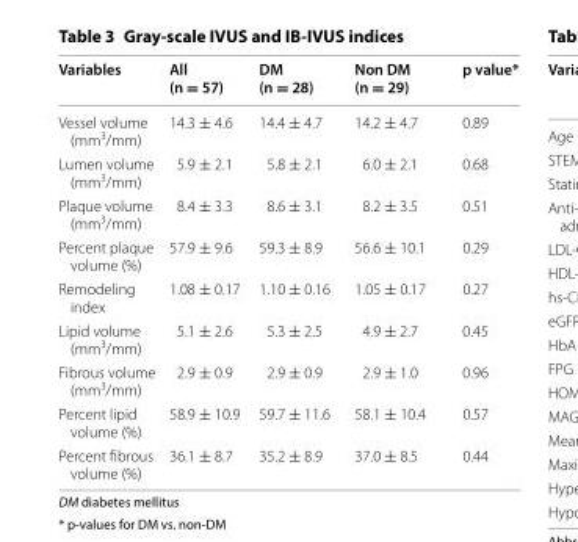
<table><thead><tr><td>Variables</td><td>All (n = 57)</td><td>DM (n = 28)</td><td>Non DM (n = 29)</td><td>p value*</td></tr></thead><tbody><tr><td>Vessel volume (mm<sup>3</sup>/mm)</td><td>14.3 ± 4.6</td><td>14.4 ± 4.7</td><td>14.2 ± 4.7</td><td>0.89</td></tr><tr><td>Lumen volume (mm<sup>3</sup>/mm)</td><td>5.9 ± 2.1</td><td>5.8 ± 2.1</td><td>6.0 ± 2.1</td><td>0.68</td></tr><tr><td>Plaque volume (mm<sup>3</sup>/mm)</td><td>8.4 ± 3.3</td><td>8.6 ± 3.1</td><td>8.2 ± 3.5</td><td>0.51</td></tr><tr><td>Percent plaque volume (%)</td><td>57.9 ± 9.6</td><td>59.3 ± 8.9</td><td>56.6 ± 10.1</td><td>0.29</td></tr><tr><td>Remodeling index</td><td>1.08 ± 0.17</td><td>1.10 ± 0.16</td><td>1.05 ± 0.17</td><td>0.27</td></tr><tr><td>Lipid volume (mm<sup>3</sup>/mm)</td><td>5.1 ± 2.6</td><td>5.3 ± 2.5</td><td>4.9 ± 2.7</td><td>0.45</td></tr><tr><td>Fibrous volume (mm<sup>3</sup>/mm)</td><td>2.9 ± 0.9</td><td>2.9 ± 0.9</td><td>2.9 ± 1.0</td><td>0.96</td></tr><tr><td>Percent lipid volume (%)</td><td>58.9 ± 10.9</td><td>59.7 ± 11.6</td><td>58.1 ± 10.4</td><td>0.57</td></tr><tr><td>Percent fibrous volume (%)</td><td>36.1 ± 8.7</td><td>35.2 ± 8.9</td><td>37.0 ± 8.5</td><td>0.44</td></tr></tbody></table>